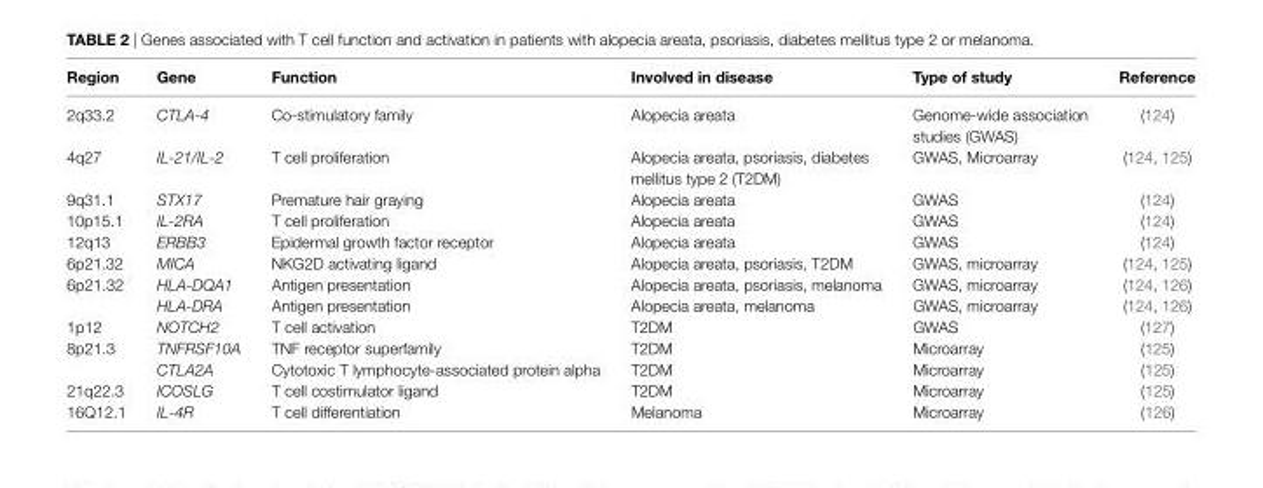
<table><thead><tr><td>Region</td><td>Gene</td><td>Function</td><td>involved in disease</td><td>Type of study</td><td>Reference</td></tr></thead><tbody><tr><td>2q33.2</td><td>CTLA-4</td><td>Co-stimulatory family</td><td>Alopecia areata</td><td>Genome-wide association studies (GWAS)</td><td>(124)</td></tr><tr><td>4q27</td><td>IL-21/IL-2</td><td>T cell proliferation</td><td>Alopecia areata, psoriasis, diabetes mellitus type 2 (T2DM)</td><td>GWAS, Microarray</td><td>(124, 125)</td></tr><tr><td>9q31.1</td><td>STX17</td><td>Premature hair graying</td><td>Alopecia areata</td><td>GWAS</td><td>(124)</td></tr><tr><td>10p15.1</td><td>IL-2RA</td><td>T cell proliferation</td><td>Alopecia areata</td><td>GWAS</td><td>(124)</td></tr><tr><td>12q13</td><td>ERBB3</td><td>Epidermal growth factor receptor</td><td>Alopecia areata</td><td>GWAS</td><td>(124)</td></tr><tr><td>6p21.32</td><td>MICA</td><td>NKG2D activating ligand</td><td>Alopecia areata, psoriasis, T2DM</td><td>GWAS, microarray</td><td>(124, 125)</td></tr><tr><td rowspan="2">6p21.32</td><td>HLA-DQA1</td><td>Antigen presentation</td><td>Alopecia areata, psoriasis, melanoma</td><td>GWAS, microarray</td><td>(124, 126)</td></tr><tr><td>HLA-DRA</td><td>Antigen presentation</td><td>Alopecia areata, melanoma</td><td>GWAS, microarray</td><td>(124, 126)</td></tr><tr><td>1p12</td><td>NOTCH2</td><td>T cell activation</td><td>T2DM</td><td>GWAS</td><td>(127)</td></tr><tr><td rowspan="2">8p21.3</td><td>TNFRSF10A</td><td>TNF receptor superfamily</td><td>T2DM</td><td>Microarray</td><td>(125)</td></tr><tr><td>CTLA2A</td><td>Cytotoxic T lymphocyte-associated protein alpha</td><td>T2DM</td><td>Microarray</td><td>(125)</td></tr><tr><td>21q22.3</td><td>ICOSLG</td><td>T cell costimulator ligand</td><td>T2DM</td><td>Microarray</td><td>(125)</td></tr><tr><td>16Q12.1</td><td>IL-4R</td><td>T cell differentiation</td><td>Melanoma</td><td>Microarray</td><td>(126)</td></tr></tbody></table>